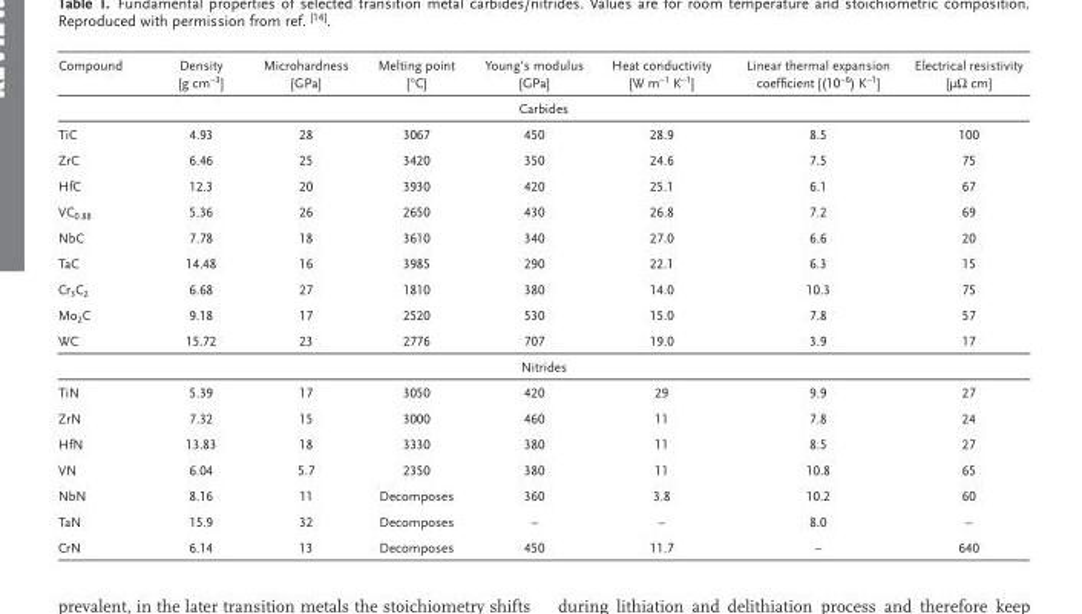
<table><thead><tr><td>Compound</td><td>Density [g cm <sup>−3</sup> ]</td><td>Microhardness [GPa]</td><td>Melting point [°C]</td><td>Young’s modulus [GPa]</td><td>Heat conductivity [W m <sup>−1</sup> K <sup>−1</sup> ]</td><td>Linear thermal expansion coeffi cient [(10 <sup>−6</sup> ) K <sup>−1</sup> ]</td><td>Electrical resistivity [µΩ cm]</td></tr></thead><tbody><tr><td colspan="8">Carbides</td></tr><tr><td>TiC</td><td>4.93</td><td>28</td><td>3067</td><td>450</td><td>28.9</td><td>8.5</td><td>100</td></tr><tr><td>ZrC</td><td>6.46</td><td>25</td><td>3420</td><td>350</td><td>24.6</td><td>7.5</td><td>75</td></tr><tr><td>HfC</td><td>12.3</td><td>20</td><td>3930</td><td>420</td><td>25.1</td><td>6.1</td><td>67</td></tr><tr><td>VC <sub>0.88</sub></td><td>5.36</td><td>26</td><td>2650</td><td>430</td><td>26.8</td><td>7.2</td><td>69</td></tr><tr><td>NbC</td><td>7.78</td><td>18</td><td>3610</td><td>340</td><td>27.0</td><td>6.6</td><td>20</td></tr><tr><td>TaC</td><td>14.48</td><td>16</td><td>3985</td><td>290</td><td>22.1</td><td>6.3</td><td>15</td></tr><tr><td>Cr <sub>3</sub> C <sub>2</sub></td><td>6.68</td><td>27</td><td>1810</td><td>380</td><td>14.0</td><td>10.3</td><td>75</td></tr><tr><td>Mo <sub>2</sub> C</td><td>9.18</td><td>17</td><td>2520</td><td>530</td><td>15.0</td><td>7.8</td><td>57</td></tr><tr><td>WC</td><td>15.72</td><td>23</td><td>2776</td><td>707</td><td>19.0</td><td>3.9</td><td>17</td></tr><tr><td colspan="8">Nitrides</td></tr><tr><td>TiN</td><td>5.39</td><td>17</td><td>3050</td><td>420</td><td>29</td><td>9.9</td><td>27</td></tr><tr><td>ZrN</td><td>7.32</td><td>15</td><td>3000</td><td>460</td><td>11</td><td>7.8</td><td>24</td></tr><tr><td>HfN</td><td>13.83</td><td>18</td><td>3330</td><td>380</td><td>11</td><td>8.5</td><td>27</td></tr><tr><td>VN</td><td>6.04</td><td>5.7</td><td>2350</td><td>380</td><td>11</td><td>10.8</td><td>65</td></tr><tr><td>NbN</td><td>8.16</td><td>11</td><td>Decomposes</td><td>360</td><td>3.8</td><td>10.2</td><td>60</td></tr><tr><td>TaN</td><td>15.9</td><td>32</td><td>Decomposes</td><td>–</td><td>–</td><td>8.0</td><td>–</td></tr><tr><td>CrN</td><td>6.14</td><td>13</td><td>Decomposes</td><td>450</td><td>11.7</td><td>–</td><td>640</td></tr></tbody></table>